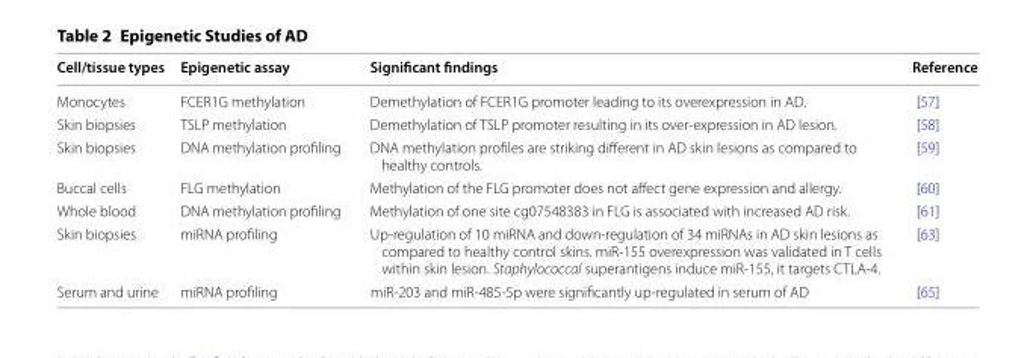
<table><thead><tr><td>Cell/tissue types</td><td>Epigenetic assay</td><td>Significant findings</td><td>Reference</td></tr></thead><tbody><tr><td>Monocytes</td><td>FCER1G methylation</td><td>Demethylation of FCER1G promoter leading to its overexpression in AD.</td><td>[57]</td></tr><tr><td>Skin biopsies</td><td>TSLP methylation</td><td>Demethylation of TSLP promoter resulting in its over-expression in AD lesion.</td><td>[58]</td></tr><tr><td>Skin biopsies</td><td>DNA methylation profiling</td><td>DNA methylation profiles are striking different in AD skin lesions as compared to healthy controls.</td><td>[59]</td></tr><tr><td>Buccal cells</td><td>FLG methylation</td><td>Methylation of the FLG promoter does not affect gene expression and allergy.</td><td>[60]</td></tr><tr><td>Whole blood</td><td>DNA methylation profiling</td><td>Methylation of one site cg07548383 in FLG is associated with increased AD risk.</td><td>[61]</td></tr><tr><td>Skin biopsies</td><td>miRNA profiling</td><td>Up-regulation of 10 miRNA and down-regulation of 34 miRNAs in AD skin lesions as compared to healthy control skins. miR-155 overexpression was validated in T cells within skin lesion. Staphylococcal superantigens induce miR-155, it targets CTLA-4.</td><td>[63]</td></tr><tr><td>Serum and urine</td><td>miRNA profiling</td><td>miR-203 and miR-485-5p were significantly up-regulated in serum of AD</td><td>[65]</td></tr></tbody></table>